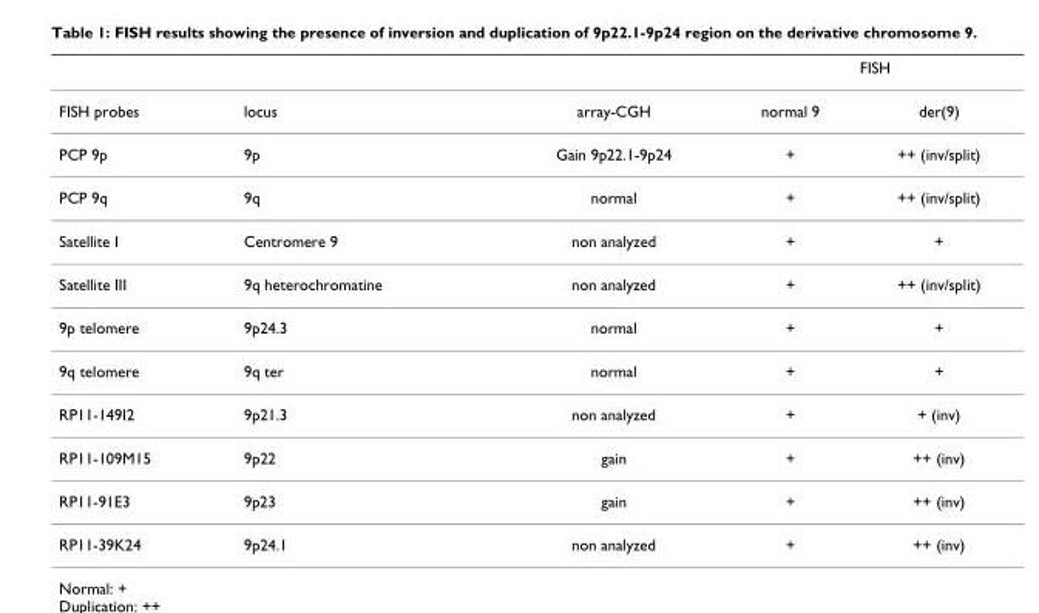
<table><thead><tr><td rowspan="2">FISH probes</td><td rowspan="2">locus</td><td rowspan="2">array-CGH</td><td colspan="2">FISH</td></tr><tr><td>normal 9</td><td>der(9)</td></tr></thead><tbody><tr><td>PCP 9p</td><td>9p</td><td>Gain 9p22.1-9p24</td><td>+</td><td>++ (inv/split)</td></tr><tr><td>PCP 9q</td><td>9q</td><td>normal</td><td>+</td><td>++ (inv/split)</td></tr><tr><td>Satellite I</td><td>Centromere 9</td><td>non analyzed</td><td>+</td><td>+</td></tr><tr><td>Satellite III</td><td>9q heterochromatine</td><td>non analyzed</td><td>+</td><td>++ (inv/split)</td></tr><tr><td>9p telomere</td><td>9p24.3</td><td>normal</td><td>+</td><td>+</td></tr><tr><td>9q telomere</td><td>9q ter</td><td>normal</td><td>+</td><td>+</td></tr><tr><td>RP11-149I2</td><td>9p21.3</td><td>non analyzed</td><td>+</td><td>+ (inv)</td></tr><tr><td>RP11-109M15</td><td>9p22</td><td>gain</td><td>+</td><td>++ (inv)</td></tr><tr><td>RP11-91E3</td><td>9p23</td><td>gain</td><td>+</td><td>++ (inv)</td></tr><tr><td>RP11-39K24</td><td>9p24.1</td><td>non analyzed</td><td>+</td><td>++ (inv)</td></tr></tbody></table>